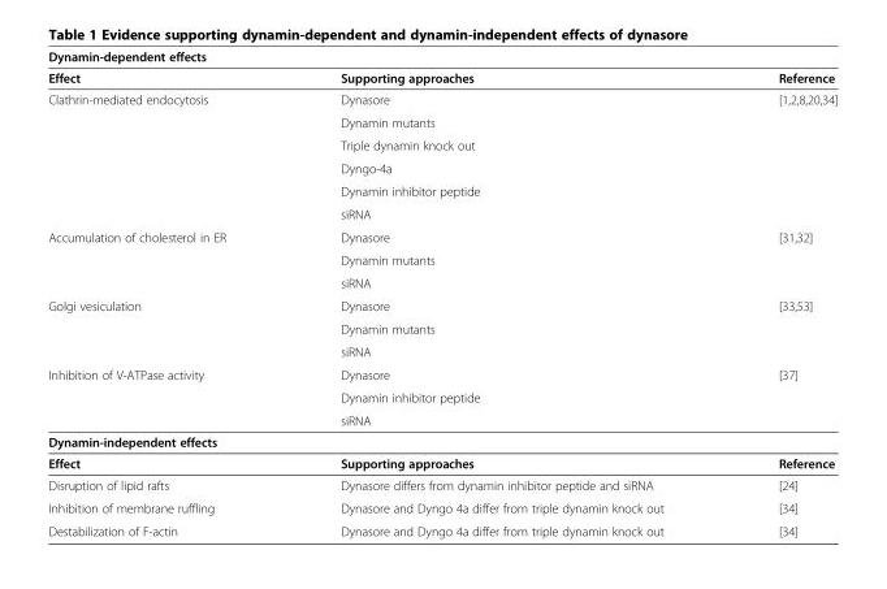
<table><thead><tr><td colspan="3">Dynamin-dependent effects</td></tr><tr><td>Effect</td><td>Supporting approaches</td><td>Reference</td></tr></thead><tbody><tr><td rowspan="6">Clathrin-mediated endocytosis</td><td>Dynasore</td><td rowspan="6">[1,2,8,20,34]</td></tr><tr><td>Dynamin mutants</td></tr><tr><td>Triple dynamin knock out</td></tr><tr><td>Dyngo-4a</td></tr><tr><td>Dynamin inhibitor peptide</td></tr><tr><td>siRNA</td></tr><tr><td rowspan="3">Accumulation of cholesterol in ER</td><td>Dynasore</td><td rowspan="3">[31,32]</td></tr><tr><td>Dynamin mutants</td></tr><tr><td>siRNA</td></tr><tr><td rowspan="3">Golgi vesiculation</td><td>Dynasore</td><td rowspan="3">[33,53]</td></tr><tr><td>Dynamin mutants</td></tr><tr><td>siRNA</td></tr><tr><td rowspan="3">Inhibition of V-ATPase activity</td><td>Dynasore</td><td rowspan="3">[37]</td></tr><tr><td>Dynamin inhibitor peptide</td></tr><tr><td>siRNA</td></tr><tr><td colspan="3">Dynamin-independent effects</td></tr><tr><td>Effect</td><td>Supporting approaches</td><td>Reference</td></tr><tr><td>Disruption of lipid rafts</td><td>Dynasore differs from dynamin inhibitor peptide and siRNA</td><td>[24]</td></tr><tr><td>Inhibition of membrane ruffling</td><td>Dynasore and Dyngo 4a differ from triple dynamin knock out</td><td>[34]</td></tr><tr><td>Destabilization of F-actin</td><td>Dynasore and Dyngo 4a differ from triple dynamin knock out</td><td>[34]</td></tr></tbody></table>